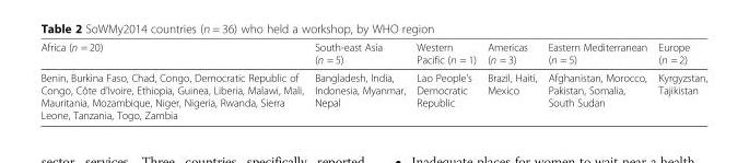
<table><thead><tr><td>Africa (n = 20)</td><td>South-east Asia (n = 5)</td><td>Western Pacific (n = 1)</td><td>Americas (n = 3)</td><td>Eastern Mediterranean (n = 5)</td><td>Europe (n = 2)</td></tr></thead><tbody><tr><td>Benin, Burkina Faso, Chad, Congo, Democratic Republic of Congo, Côte d’Ivoire, Ethiopia, Guinea, Liberia, Malawi, Mali, Mauritania, Mozambique, Niger, Nigeria, Rwanda, Sierra Leone, Tanzania, Togo, Zambia</td><td>Bangladesh, India, Indonesia, Myanmar, Nepal</td><td>Lao People’s Democratic Republic</td><td>Brazil, Haiti, Mexico</td><td>Afghanistan, Morocco, Pakistan, Somalia, South Sudan</td><td>Kyrgyzstan, Tajikistan</td></tr></tbody></table>